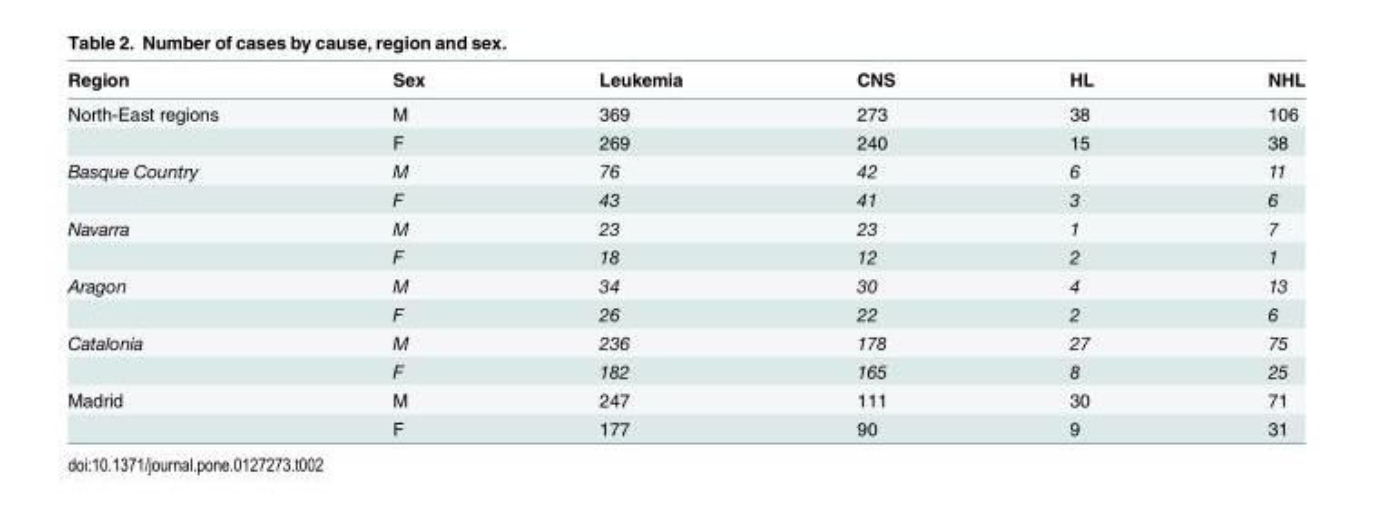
<table><thead><tr><td>Region</td><td>Sex</td><td>Leukemia</td><td>CNS</td><td>HL</td><td>NHL</td></tr></thead><tbody><tr><td rowspan="2">North-East regions</td><td>M</td><td>369</td><td>273</td><td>38</td><td>106</td></tr><tr><td>F</td><td>269</td><td>240</td><td>15</td><td>38</td></tr><tr><td rowspan="2">Basque Country</td><td>M</td><td>76</td><td>42</td><td>6</td><td>11</td></tr><tr><td>F</td><td>43</td><td>41</td><td>3</td><td>6</td></tr><tr><td rowspan="2">Navarra</td><td>M</td><td>23</td><td>23</td><td>1</td><td>7</td></tr><tr><td>F</td><td>18</td><td>12</td><td>2</td><td>1</td></tr><tr><td rowspan="2">Aragon</td><td>M</td><td>34</td><td>30</td><td>4</td><td>13</td></tr><tr><td>F</td><td>26</td><td>22</td><td>2</td><td>6</td></tr><tr><td rowspan="2">Catalonia</td><td>M</td><td>236</td><td>178</td><td>27</td><td>75</td></tr><tr><td>F</td><td>182</td><td>165</td><td>8</td><td>25</td></tr><tr><td rowspan="2">Madrid</td><td>M</td><td>247</td><td>111</td><td>30</td><td>71</td></tr><tr><td>F</td><td>177</td><td>90</td><td>9</td><td>31</td></tr></tbody></table>